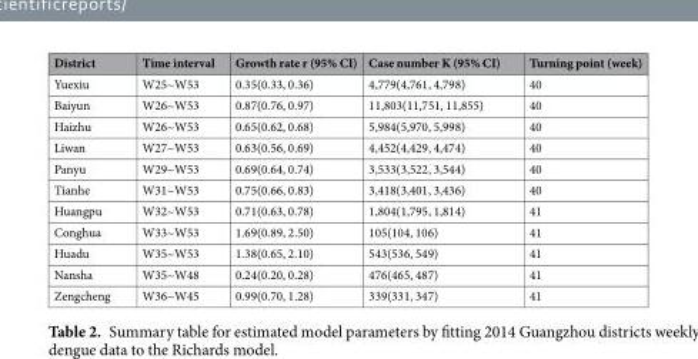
<table><thead><tr><td>District</td><td>Time interval</td><td>Growth rate r (95% CI)</td><td>Case number K (95% CI)</td><td>Turning point (week)</td></tr></thead><tbody><tr><td>Yuexiu</td><td>W25~W53</td><td>0.35(0.33, 0.36)</td><td>4,779(4,761, 4,798)</td><td>40</td></tr><tr><td>Baiyun</td><td>W26~W53</td><td>0.87(0.76, 0.97)</td><td>11,803(11,751, 11,855)</td><td>40</td></tr><tr><td>Haizhu</td><td>W26~W53</td><td>0.65(0.62, 0.68)</td><td>5,984(5,970, 5,998)</td><td>40</td></tr><tr><td>Liwan</td><td>W27~W53</td><td>0.63(0.56, 0.69)</td><td>4,452(4,429, 4,474)</td><td>40</td></tr><tr><td>Panyu</td><td>W29~W53</td><td>0.69(0.64, 0.74)</td><td>3,533(3,522, 3,544)</td><td>40</td></tr><tr><td>Tianhe</td><td>W31~W53</td><td>0.75(0.66, 0.83)</td><td>3,418(3,401, 3,436)</td><td>40</td></tr><tr><td>Huangpu</td><td>W32~W53</td><td>0.71(0.63, 0.78)</td><td>1,804(1,795, 1,814)</td><td>41</td></tr><tr><td>Conghua</td><td>W33~W53</td><td>1.69(0.89, 2.50)</td><td>105(104, 106)</td><td>41</td></tr><tr><td>Huadu</td><td>W35~W53</td><td>1.38(0.65, 2.10)</td><td>543(536, 549)</td><td>41</td></tr><tr><td>Nansha</td><td>W35~W48</td><td>0.24(0.20, 0.28)</td><td>476(465, 487)</td><td>41</td></tr><tr><td>Zengcheng</td><td>W36~W45</td><td>0.99(0.70, 1.28)</td><td>339(331, 347)</td><td>41</td></tr></tbody></table>